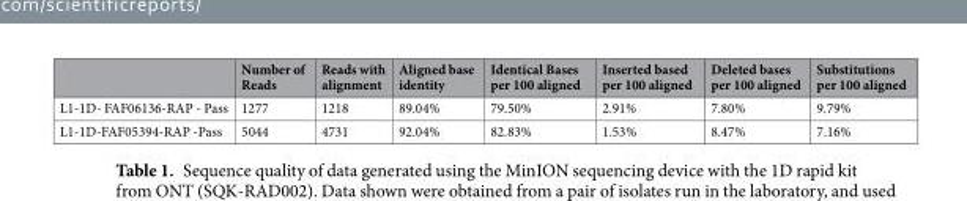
<table><thead><tr><td></td><td>Number of Reads</td><td>Reads with alignment</td><td>Aligned base identity</td><td>Identical Bases per 100 aligned</td><td>Inserted based per 100 aligned</td><td>Deleted bases per 100 aligned</td><td>Substitutions per 100 aligned</td></tr></thead><tbody><tr><td>L1-1D- FAF06136-RAP - Pass</td><td>1277</td><td>1218</td><td>89.04%</td><td>79.50%</td><td>2.91%</td><td>7.80%</td><td>9.79%</td></tr><tr><td>L1-1D-FAF05394-RAP -Pass</td><td>5044</td><td>4731</td><td>92.04%</td><td>82.83%</td><td>1.53%</td><td>8.47%</td><td>7.16%</td></tr></tbody></table>